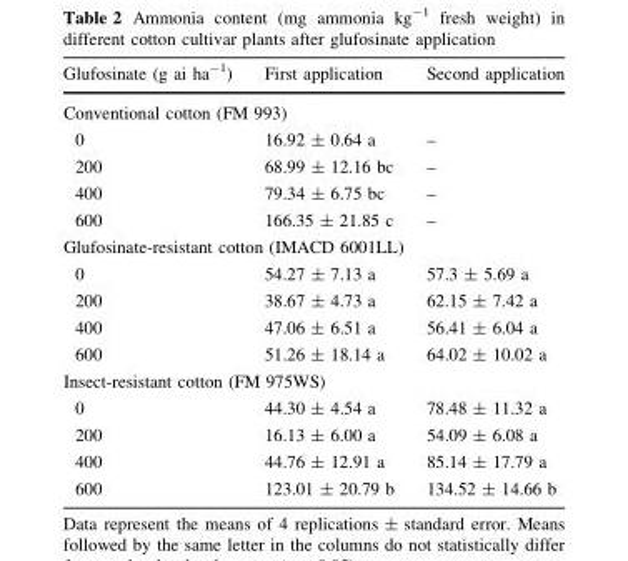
<table><thead><tr><td>Glufosinate (g ai ha<sup>-1</sup>)</td><td>First application</td><td>Second application</td></tr></thead><tbody><tr><td colspan="3">Conventional cotton (FM 993)</td></tr><tr><td>0</td><td>16.92 ± 0.64 a</td><td>–</td></tr><tr><td>200</td><td>68.99 ± 12.16 bc</td><td>–</td></tr><tr><td>400</td><td>79.34 ± 6.75 bc</td><td>–</td></tr><tr><td>600</td><td>166.35 ± 21.85 c</td><td>–</td></tr><tr><td colspan="3">Glufosinate-resistant cotton (IMACD 6001LL)</td></tr><tr><td>0</td><td>54.27 ± 7.13 a</td><td>57.3 ± 5.69 a</td></tr><tr><td>200</td><td>38.67 ± 4.73 a</td><td>62.15 ± 7.42 a</td></tr><tr><td>400</td><td>47.06 ± 6.51 a</td><td>56.41 ± 6.04 a</td></tr><tr><td>600</td><td>51.26 ± 18.14 a</td><td>64.02 ± 10.02 a</td></tr><tr><td colspan="3">Insect-resistant cotton (FM 975WS)</td></tr><tr><td>0</td><td>44.30 ± 4.54 a</td><td>78.48 ± 11.32 a</td></tr><tr><td>200</td><td>16.13 ± 6.00 a</td><td>54.09 ± 6.08 a</td></tr><tr><td>400</td><td>44.76 ± 12.91 a</td><td>85.14 ± 17.79 a</td></tr><tr><td>600</td><td>123.01 ± 20.79 b</td><td>134.52 ± 14.66 b</td></tr></tbody></table>